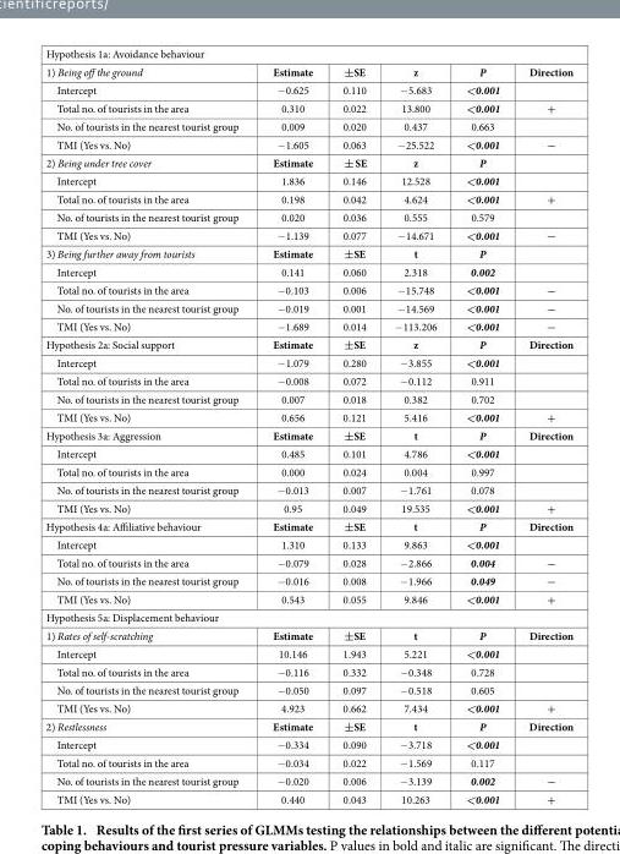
<table><tbody><tr><td colspan="6">Hypothesis 1a: Avoidance behaviour</td></tr><tr><td>1) Being off the ground</td><td>Estimate</td><td>±SE</td><td>z</td><td>P</td><td>Direction</td></tr><tr><td>Intercept</td><td>− 0.625</td><td>0.110</td><td>− 5.683</td><td>&lt;0.001</td><td></td></tr><tr><td>Total no. of tourists in the area</td><td>0.310</td><td>0.022</td><td>13.800</td><td>&lt;0.001</td><td>+</td></tr><tr><td>No. of tourists in the nearest tourist group</td><td>0.009</td><td>0.020</td><td>0.437</td><td>0.663</td><td></td></tr><tr><td>TMI (Yes vs. No)</td><td>− 1.605</td><td>0.063</td><td>− 25.522</td><td>&lt;0.001</td><td>−</td></tr><tr><td>2) Being under tree cover</td><td>Estimate</td><td>± SE</td><td>z</td><td>P</td><td></td></tr><tr><td>Intercept</td><td>1.836</td><td>0.146</td><td>12.528</td><td>&lt;0.001</td><td></td></tr><tr><td>Total no. of tourists in the area</td><td>0.198</td><td>0.042</td><td>4.624</td><td>&lt;0.001</td><td>+</td></tr><tr><td>No. of tourists in the nearest tourist group</td><td>0.020</td><td>0.036</td><td>0.555</td><td>0.579</td><td></td></tr><tr><td>TMI (Yes vs. No)</td><td>− 1.139</td><td>0.077</td><td>− 14.671</td><td>&lt;0.001</td><td>−</td></tr><tr><td>3) Being further away from tourists</td><td>Estimate</td><td>±SE</td><td>t</td><td>P</td><td></td></tr><tr><td>Intercept</td><td>0.141</td><td>0.060</td><td>2.318</td><td>0.002</td><td></td></tr><tr><td>Total no. of tourists in the area</td><td>− 0.103</td><td>0.006</td><td>− 15.748</td><td>&lt;0.001</td><td>−</td></tr><tr><td>No. of tourists in the nearest tourist group</td><td>− 0.019</td><td>0.001</td><td>− 14.569</td><td>&lt;0.001</td><td>−</td></tr><tr><td>TMI (Yes vs. No)</td><td>− 1.689</td><td>0.014</td><td>− 113.206</td><td>&lt;0.001</td><td>−</td></tr><tr><td>Hypothesis 2a: Social support</td><td>Estimate</td><td>±SE</td><td>z</td><td>P</td><td>Direction</td></tr><tr><td>Intercept</td><td>− 1.079</td><td>0.280</td><td>− 3.855</td><td>&lt;0.001</td><td></td></tr><tr><td>Total no. of tourists in the area</td><td>− 0.008</td><td>0.072</td><td>− 0.112</td><td>0.911</td><td></td></tr><tr><td>No. of tourists in the nearest tourist group</td><td>0.007</td><td>0.018</td><td>0.382</td><td>0.702</td><td></td></tr><tr><td>TMI (Yes vs. No)</td><td>0.656</td><td>0.121</td><td>5.416</td><td>&lt;0.001</td><td>+</td></tr><tr><td>Hypothesis 3a: Aggression</td><td>Estimate</td><td>±SE</td><td>t</td><td>P</td><td>Direction</td></tr><tr><td>Intercept</td><td>0.485</td><td>0.101</td><td>4.786</td><td>&lt;0.001</td><td></td></tr><tr><td>Total no. of tourists in the area</td><td>0.000</td><td>0.024</td><td>0.004</td><td>0.997</td><td></td></tr><tr><td>No. of tourists in the nearest tourist group</td><td>− 0.013</td><td>0.007</td><td>− 1.761</td><td>0.078</td><td></td></tr><tr><td>TMI (Yes vs. No)</td><td>0.95</td><td>0.049</td><td>19.535</td><td>&lt;0.001</td><td>+</td></tr><tr><td>Hypothesis 4a: Affiliative behaviour</td><td>Estimate</td><td>±SE</td><td>t</td><td>P</td><td>Direction</td></tr><tr><td>Intercept</td><td>1.310</td><td>0.133</td><td>9.863</td><td>&lt;0.001</td><td></td></tr><tr><td>Total no. of tourists in the area</td><td>− 0.079</td><td>0.028</td><td>− 2.866</td><td>0.004</td><td>−</td></tr><tr><td>No. of tourists in the nearest tourist group</td><td>− 0.016</td><td>0.008</td><td>− 1.966</td><td>0.049</td><td>−</td></tr><tr><td>TMI (Yes vs. No)</td><td>0.543</td><td>0.055</td><td>9.846</td><td>&lt;0.001</td><td>+</td></tr><tr><td colspan="6">Hypothesis 5a: Displacement behaviour</td></tr><tr><td>1) Rates of self-scratching</td><td>Estimate</td><td>±SE</td><td>t</td><td>P</td><td>Direction</td></tr><tr><td>Intercept</td><td>10.146</td><td>1.943</td><td>5.221</td><td>&lt;0.001</td><td></td></tr><tr><td>Total no. of tourists in the area</td><td>− 0.116</td><td>0.332</td><td>− 0.348</td><td>0.728</td><td></td></tr><tr><td>No. of tourists in the nearest tourist group</td><td>− 0.050</td><td>0.097</td><td>− 0.518</td><td>0.605</td><td></td></tr><tr><td>TMI (Yes vs. No)</td><td>4.923</td><td>0.662</td><td>7.434</td><td>&lt;0.001</td><td>+</td></tr><tr><td>2) Restlessness</td><td>Estimate</td><td>±SE</td><td>t</td><td>P</td><td>Direction</td></tr><tr><td>Intercept</td><td>− 0.334</td><td>0.090</td><td>− 3.718</td><td>&lt;0.001</td><td></td></tr><tr><td>Total no. of tourists in the area</td><td>− 0.034</td><td>0.022</td><td>− 1.569</td><td>0.117</td><td></td></tr><tr><td>No. of tourists in the nearest tourist group</td><td>− 0.020</td><td>0.006</td><td>− 3.139</td><td>0.002</td><td>−</td></tr><tr><td>TMI (Yes vs. No)</td><td>0.440</td><td>0.043</td><td>10.263</td><td>&lt;0.001</td><td>+</td></tr></tbody></table>